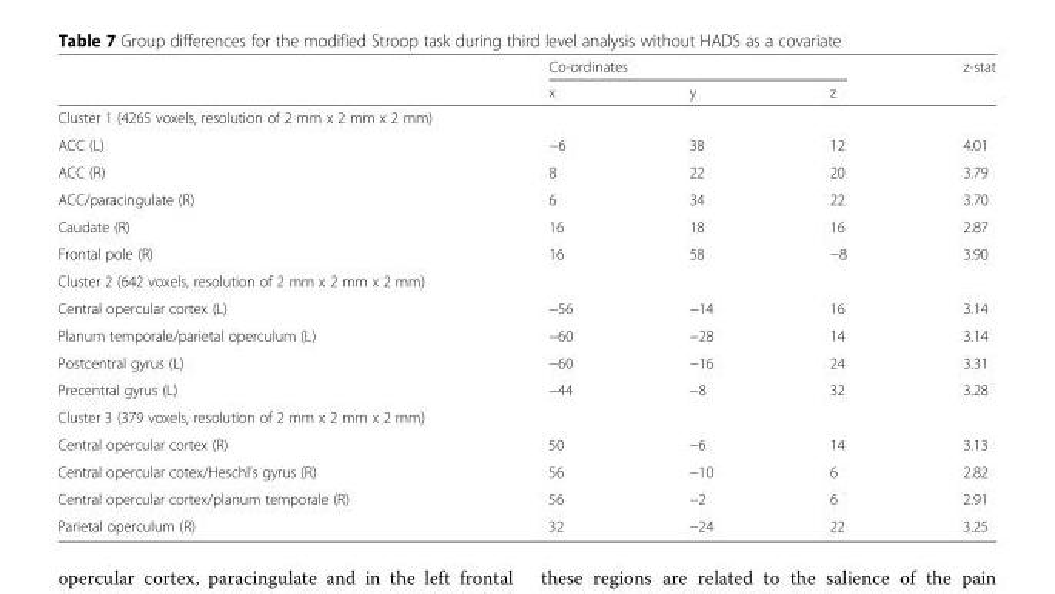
<table><thead><tr><td rowspan="2"></td><td colspan="3">Co-ordinates</td><td rowspan="2">z-stat</td></tr><tr><td>x</td><td>y</td><td>z</td></tr></thead><tbody><tr><td colspan="5">Cluster 1 (4265 voxels, resolution of 2 mm x 2 mm x 2 mm)</td></tr><tr><td>ACC (L)</td><td>−6</td><td>38</td><td>12</td><td>4.01</td></tr><tr><td>ACC (R)</td><td>8</td><td>22</td><td>20</td><td>3.79</td></tr><tr><td>ACC/paracingulate (R)</td><td>6</td><td>34</td><td>22</td><td>3.70</td></tr><tr><td>Caudate (R)</td><td>16</td><td>18</td><td>16</td><td>2.87</td></tr><tr><td>Frontal pole (R)</td><td>16</td><td>58</td><td>−8</td><td>3.90</td></tr><tr><td colspan="5">Cluster 2 (642 voxels, resolution of 2 mm x 2 mm x 2 mm)</td></tr><tr><td>Central opercular cortex (L)</td><td>−56</td><td>−14</td><td>16</td><td>3.14</td></tr><tr><td>Planum temporale/parietal operculum (L)</td><td>−60</td><td>−28</td><td>14</td><td>3.14</td></tr><tr><td>Postcentral gyrus (L)</td><td>−60</td><td>−16</td><td>24</td><td>3.31</td></tr><tr><td>Precentral gyrus (L)</td><td>−44</td><td>−8</td><td>32</td><td>3.28</td></tr><tr><td colspan="5">Cluster 3 (379 voxels, resolution of 2 mm x 2 mm x 2 mm)</td></tr><tr><td>Central opercular cortex (R)</td><td>50</td><td>−6</td><td>14</td><td>3.13</td></tr><tr><td>Central opercular cotex/Heschl’s gyrus (R)</td><td>56</td><td>−10</td><td>6</td><td>2.82</td></tr><tr><td>Central opercular cortex/planum temporale (R)</td><td>56</td><td>−2</td><td>6</td><td>2.91</td></tr><tr><td>Parietal operculum (R)</td><td>32</td><td>−24</td><td>22</td><td>3.25</td></tr></tbody></table>